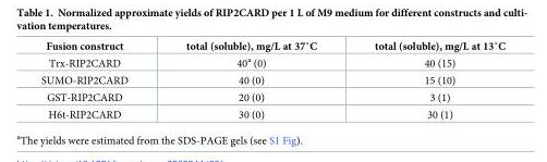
<table><thead><tr><td>Fusion construct</td><td>total (soluble), mg/L at 37˚C</td><td>total (soluble), mg/L at 13˚C</td></tr></thead><tbody><tr><td>Trx-RIP2CARD</td><td>40<sup>a</sup> (0)</td><td>40 (15)</td></tr><tr><td>SUMO-RIP2CARD</td><td>40 (0)</td><td>15 (10)</td></tr><tr><td>GST-RIP2CARD</td><td>20 (0)</td><td>3 (1)</td></tr><tr><td>H6t-RIP2CARD</td><td>30 (0)</td><td>30 (1)</td></tr></tbody></table>